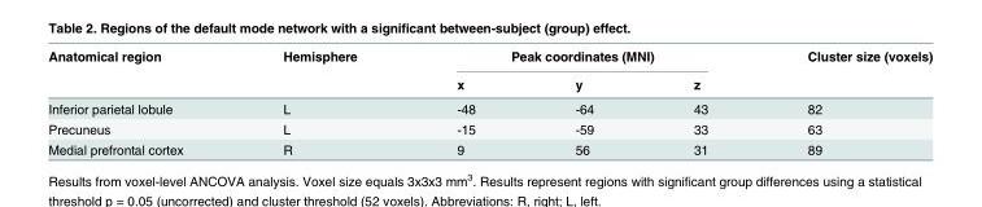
<table><thead><tr><td rowspan="2">Anatomical region</td><td rowspan="2">Hemisphere</td><td colspan="3">Peak coordinates (MNI)</td><td rowspan="2">Cluster size (voxels)</td></tr><tr><td>x</td><td>y</td><td>z</td></tr></thead><tbody><tr><td>Inferior parietal lobule</td><td>L</td><td>-48</td><td>-64</td><td>43</td><td>82</td></tr><tr><td>Precuneus</td><td>L</td><td>-15</td><td>-59</td><td>33</td><td>63</td></tr><tr><td>Medial prefrontal cortex</td><td>R</td><td>9</td><td>56</td><td>31</td><td>89</td></tr></tbody></table>